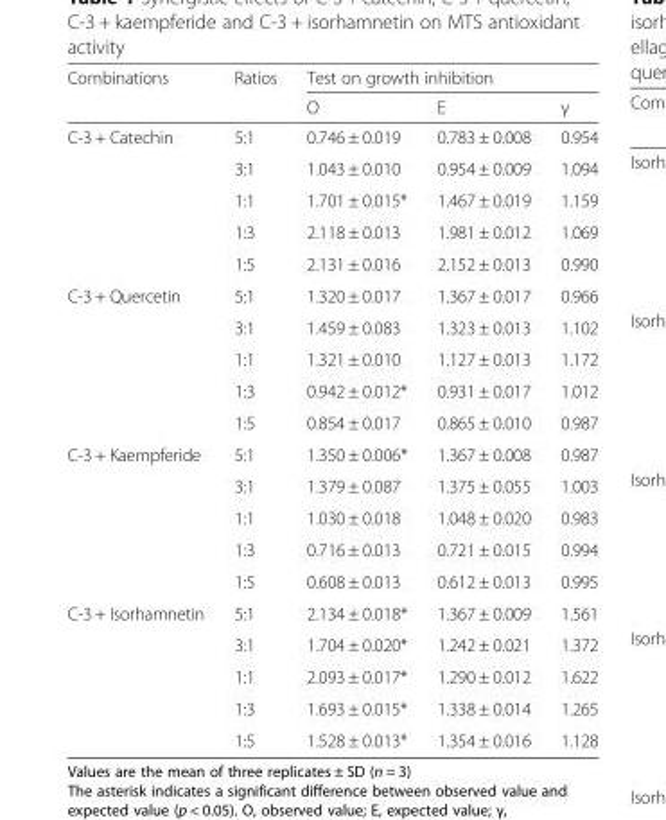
<table><thead><tr><td rowspan="2">Combinations</td><td rowspan="2">Ratios</td><td colspan="3">Test on growth inhibition</td></tr><tr><td>O</td><td>E</td><td>γ</td></tr></thead><tbody><tr><td rowspan="5">C-3 + Catechin</td><td>5:1</td><td>0.746 ± 0.019</td><td>0.783 ± 0.008</td><td>0.954</td></tr><tr><td>3:1</td><td>1.043 ± 0.010</td><td>0.954 ± 0.009</td><td>1.094</td></tr><tr><td>1:1</td><td>1.701 ± 0.015*</td><td>1.467 ± 0.019</td><td>1.159</td></tr><tr><td>1:3</td><td>2.118 ± 0.013</td><td>1.981 ± 0.012</td><td>1.069</td></tr><tr><td>1:5</td><td>2.131 ± 0.016</td><td>2.152 ± 0.013</td><td>0.990</td></tr><tr><td rowspan="5">C-3 + Quercetin</td><td>5:1</td><td>1.320 ± 0.017</td><td>1.367 ± 0.017</td><td>0.966</td></tr><tr><td>3:1</td><td>1.459 ± 0.083</td><td>1.323 ± 0.013</td><td>1.102</td></tr><tr><td>1:1</td><td>1.321 ± 0.010</td><td>1.127 ± 0.013</td><td>1.172</td></tr><tr><td>1:3</td><td>0.942 ± 0.012*</td><td>0.931 ± 0.017</td><td>1.012</td></tr><tr><td>1:5</td><td>0.854 ± 0.017</td><td>0.865 ± 0.010</td><td>0.987</td></tr><tr><td rowspan="5">C-3 + Kaempferide</td><td>5:1</td><td>1.350 ± 0.006*</td><td>1.367 ± 0.008</td><td>0.987</td></tr><tr><td>3:1</td><td>1.379 ± 0.087</td><td>1.375 ± 0.055</td><td>1.003</td></tr><tr><td>1:1</td><td>1.030 ± 0.018</td><td>1.048 ± 0.020</td><td>0.983</td></tr><tr><td>1:3</td><td>0.716 ± 0.013</td><td>0.721 ± 0.015</td><td>0.994</td></tr><tr><td>1:5</td><td>0.608 ± 0.013</td><td>0.612 ± 0.013</td><td>0.995</td></tr><tr><td rowspan="5">C-3 + Isorhamnetin</td><td>5:1</td><td>2.134 ± 0.018*</td><td>1.367 ± 0.009</td><td>1.561</td></tr><tr><td>3:1</td><td>1.704 ± 0.020*</td><td>1.242 ± 0.021</td><td>1.372</td></tr><tr><td>1:1</td><td>2.093 ± 0.017*</td><td>1.290 ± 0.012</td><td>1.622</td></tr><tr><td>1:3</td><td>1.693 ± 0.015*</td><td>1.338 ± 0.014</td><td>1.265</td></tr><tr><td>1:5</td><td>1.528 ± 0.013*</td><td>1.354 ± 0.016</td><td>1.128</td></tr></tbody></table>